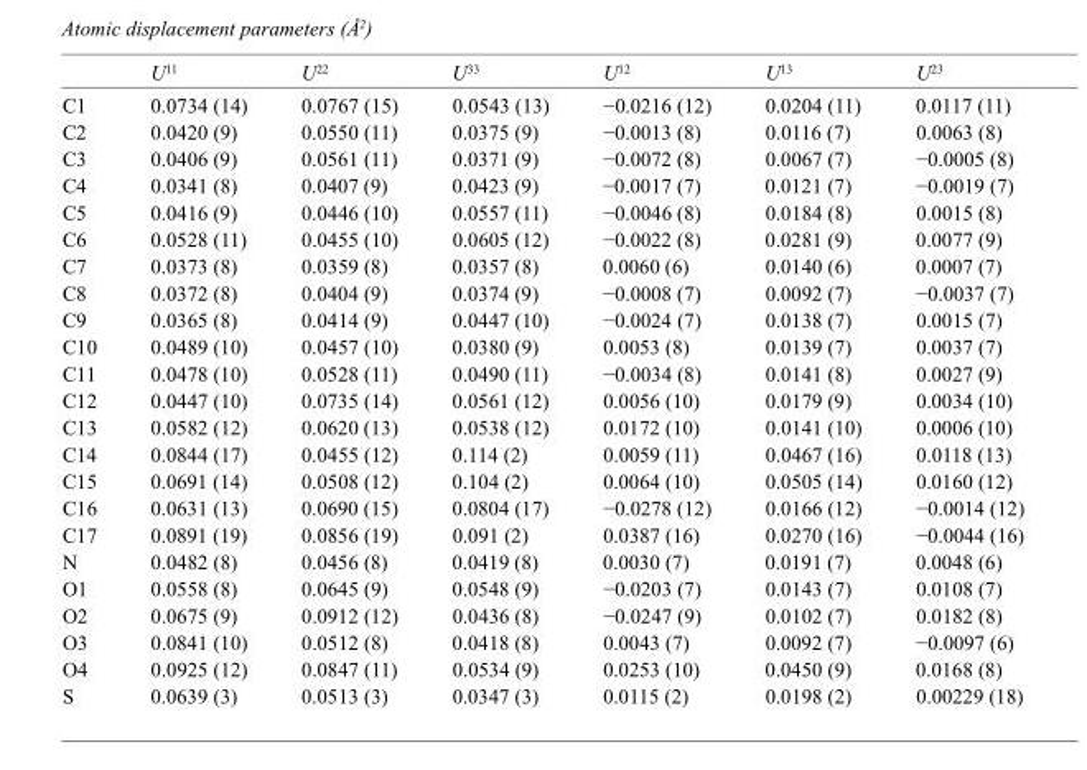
<table><thead><tr><td></td><td>U<sup>11</sup></td><td>U<sup>22</sup></td><td>U<sup>33</sup></td><td>U<sup>12</sup></td><td>U<sup>13</sup></td><td>U<sup>23</sup></td></tr></thead><tbody><tr><td>C1</td><td>0.0734 (14)</td><td>0.0767 (15)</td><td>0.0543 (13)</td><td>−0.0216 (12)</td><td>0.0204 (11)</td><td>0.0117 (11)</td></tr><tr><td>C2</td><td>0.0420 (9)</td><td>0.0550 (11)</td><td>0.0375 (9)</td><td>−0.0013 (8)</td><td>0.0116 (7)</td><td>0.0063 (8)</td></tr><tr><td>C3</td><td>0.0406 (9)</td><td>0.0561 (11)</td><td>0.0371 (9)</td><td>−0.0072 (8)</td><td>0.0067 (7)</td><td>−0.0005 (8)</td></tr><tr><td>C4</td><td>0.0341 (8)</td><td>0.0407 (9)</td><td>0.0423 (9)</td><td>−0.0017 (7)</td><td>0.0121 (7)</td><td>−0.0019 (7)</td></tr><tr><td>C5</td><td>0.0416 (9)</td><td>0.0446 (10)</td><td>0.0557 (11)</td><td>−0.0046 (8)</td><td>0.0184 (8)</td><td>0.0015 (8)</td></tr><tr><td>C6</td><td>0.0528 (11)</td><td>0.0455 (10)</td><td>0.0605 (12)</td><td>−0.0022 (8)</td><td>0.0281 (9)</td><td>0.0077 (9)</td></tr><tr><td>C7</td><td>0.0373 (8)</td><td>0.0359 (8)</td><td>0.0357 (8)</td><td>0.0060 (6)</td><td>0.0140 (6)</td><td>0.0007 (7)</td></tr><tr><td>C8</td><td>0.0372 (8)</td><td>0.0404 (9)</td><td>0.0374 (9)</td><td>−0.0008 (7)</td><td>0.0092 (7)</td><td>−0.0037 (7)</td></tr><tr><td>C9</td><td>0.0365 (8)</td><td>0.0414 (9)</td><td>0.0447 (10)</td><td>−0.0024 (7)</td><td>0.0138 (7)</td><td>0.0015 (7)</td></tr><tr><td>C10</td><td>0.0489 (10)</td><td>0.0457 (10)</td><td>0.0380 (9)</td><td>0.0053 (8)</td><td>0.0139 (7)</td><td>0.0037 (7)</td></tr><tr><td>C11</td><td>0.0478 (10)</td><td>0.0528 (11)</td><td>0.0490 (11)</td><td>−0.0034 (8)</td><td>0.0141 (8)</td><td>0.0027 (9)</td></tr><tr><td>C12</td><td>0.0447 (10)</td><td>0.0735 (14)</td><td>0.0561 (12)</td><td>0.0056 (10)</td><td>0.0179 (9)</td><td>0.0034 (10)</td></tr><tr><td>C13</td><td>0.0582 (12)</td><td>0.0620 (13)</td><td>0.0538 (12)</td><td>0.0172 (10)</td><td>0.0141 (10)</td><td>0.0006 (10)</td></tr><tr><td>C14</td><td>0.0844 (17)</td><td>0.0455 (12)</td><td>0.114 (2)</td><td>0.0059 (11)</td><td>0.0467 (16)</td><td>0.0118 (13)</td></tr><tr><td>C15</td><td>0.0691 (14)</td><td>0.0508 (12)</td><td>0.104 (2)</td><td>0.0064 (10)</td><td>0.0505 (14)</td><td>0.0160 (12)</td></tr><tr><td>C16</td><td>0.0631 (13)</td><td>0.0690 (15)</td><td>0.0804 (17)</td><td>−0.0278 (12)</td><td>0.0166 (12)</td><td>−0.0014 (12)</td></tr><tr><td>C17</td><td>0.0891 (19)</td><td>0.0856 (19)</td><td>0.091 (2)</td><td>0.0387 (16)</td><td>0.0270 (16)</td><td>−0.0044 (16)</td></tr><tr><td>N</td><td>0.0482 (8)</td><td>0.0456 (8)</td><td>0.0419 (8)</td><td>0.0030 (7)</td><td>0.0191 (7)</td><td>0.0048 (6)</td></tr><tr><td>O1</td><td>0.0558 (8)</td><td>0.0645 (9)</td><td>0.0548 (9)</td><td>−0.0203 (7)</td><td>0.0143 (7)</td><td>0.0108 (7)</td></tr><tr><td>O2</td><td>0.0675 (9)</td><td>0.0912 (12)</td><td>0.0436 (8)</td><td>−0.0247 (9)</td><td>0.0102 (7)</td><td>0.0182 (8)</td></tr><tr><td>O3</td><td>0.0841 (10)</td><td>0.0512 (8)</td><td>0.0418 (8)</td><td>0.0043 (7)</td><td>0.0092 (7)</td><td>−0.0097 (6)</td></tr><tr><td>O4</td><td>0.0925 (12)</td><td>0.0847 (11)</td><td>0.0534 (9)</td><td>0.0253 (10)</td><td>0.0450 (9)</td><td>0.0168 (8)</td></tr><tr><td>S</td><td>0.0639 (3)</td><td>0.0513 (3)</td><td>0.0347 (3)</td><td>0.0115 (2)</td><td>0.0198 (2)</td><td>0.00229 (18)</td></tr></tbody></table>